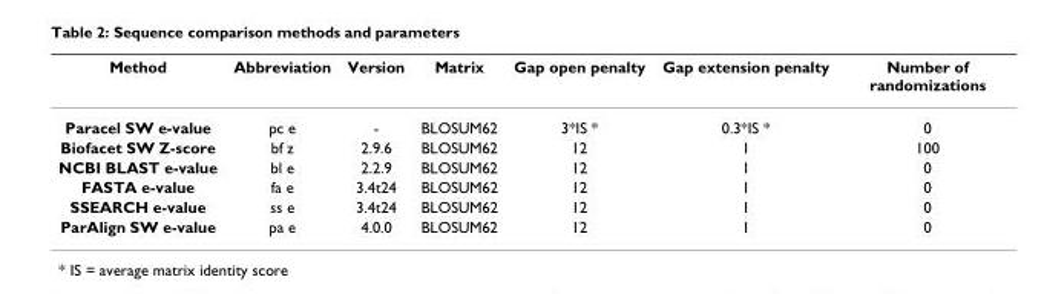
<table><thead><tr><td>Method</td><td>Abbreviation</td><td>Version</td><td>Matrix</td><td>Gap open penalty</td><td>Gap extension penalty</td><td>Number of randomizations</td></tr></thead><tbody><tr><td>Paracel SW e-value</td><td>pc e</td><td>-</td><td>BLOSUM62</td><td>3*IS *</td><td>0.3*IS *</td><td>0</td></tr><tr><td>Biofacet SW Z-score</td><td>bf z</td><td>2.9.6</td><td>BLOSUM62</td><td>12</td><td>1</td><td>100</td></tr><tr><td>NCBI BLAST e-value</td><td>bl e</td><td>2.2.9</td><td>BLOSUM62</td><td>12</td><td>1</td><td>0</td></tr><tr><td>FASTA e-value</td><td>fa e</td><td>3.4t24</td><td>BLOSUM62</td><td>12</td><td>1</td><td>0</td></tr><tr><td>SSEARCH e-value</td><td>ss e</td><td>3.4t24</td><td>BLOSUM62</td><td>12</td><td>1</td><td>0</td></tr><tr><td>ParAlign SW e-value</td><td>pa e</td><td>4.0.0</td><td>BLOSUM62</td><td>12</td><td>1</td><td>0</td></tr></tbody></table>